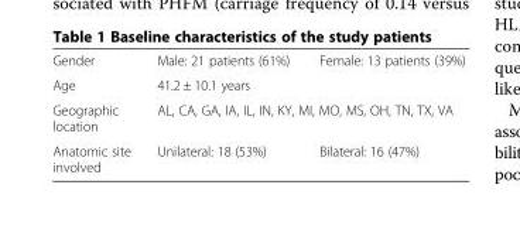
<table><tbody><tr><td>Gender</td><td>Male: 21 patients (61%)</td><td>Female: 13 patients (39%)</td></tr><tr><td>Age</td><td colspan="2">41.2 ± 10.1 years</td></tr><tr><td>Geographic location</td><td colspan="2">AL, CA, GA, IA, IL, IN, KY, MI, MO, MS, OH, TN, TX, VA</td></tr><tr><td>Anatomic site involved</td><td>Unilateral: 18 (53%)</td><td>Bilateral: 16 (47%)</td></tr></tbody></table>